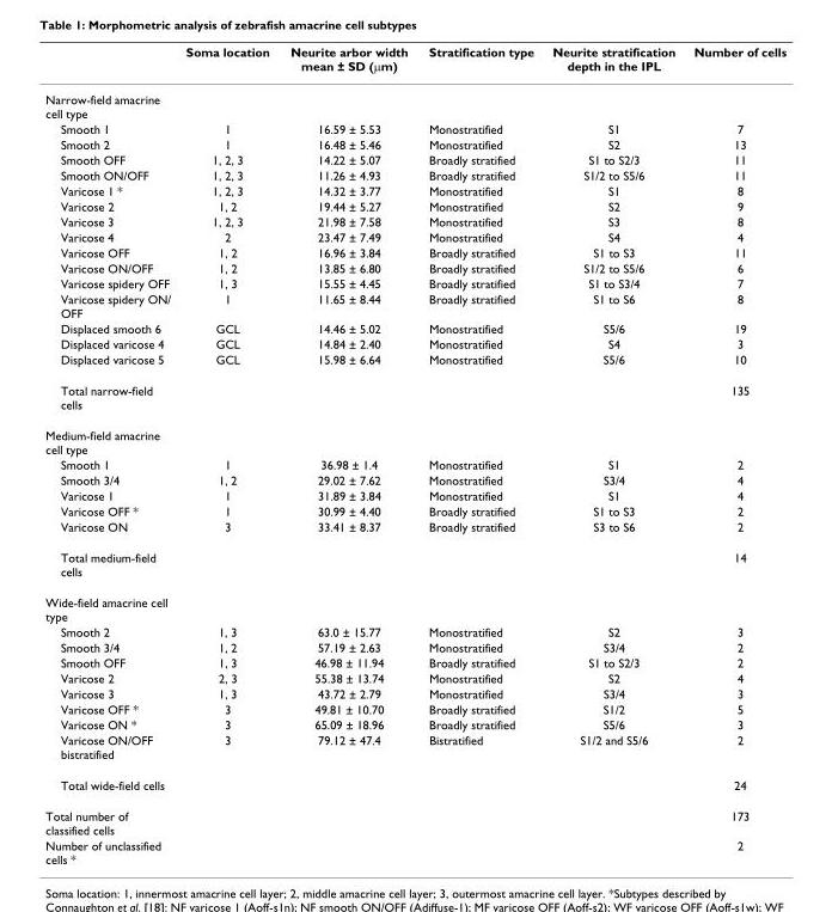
<table><thead><tr><td></td><td>Soma location</td><td>Neurite arbor width mean ± SD (μm)</td><td>Stratification type</td><td>Neurite stratification depth in the IPL</td><td>Number of cells</td></tr></thead><tbody><tr><td colspan="6">Narrow-field amacrine cell type</td></tr><tr><td>Smooth 1</td><td>1</td><td>16.59 ± 5.53</td><td>Monostratified</td><td>S1</td><td>7</td></tr><tr><td>Smooth 2</td><td>1</td><td>16.48 ± 5.46</td><td>Monostratified</td><td>S2</td><td>13</td></tr><tr><td>Smooth OFF</td><td>1, 2, 3</td><td>14.22 ± 5.07</td><td>Broadly stratified</td><td>S1 to S2/3</td><td>11</td></tr><tr><td>Smooth ON/OFF</td><td>1, 2, 3</td><td>11.26 ± 4.93</td><td>Broadly stratified</td><td>S1/2 to S5/6</td><td>11</td></tr><tr><td>Varicose 1 *</td><td>1, 2, 3</td><td>14.32 ± 3.77</td><td>Monostratified</td><td>S1</td><td>8</td></tr><tr><td>Varicose 2</td><td>1, 2</td><td>19.44 ± 5.27</td><td>Monostratified</td><td>S2</td><td>9</td></tr><tr><td>Varicose 3</td><td>1, 2, 3</td><td>21.98 ± 7.58</td><td>Monostratified</td><td>S3</td><td>8</td></tr><tr><td>Varicose 4</td><td>2</td><td>23.47 ± 7.49</td><td>Monostratified</td><td>S4</td><td>4</td></tr><tr><td>Varicose OFF</td><td>1, 2</td><td>16.96 ± 3.84</td><td>Broadly stratified</td><td>S1 to S3</td><td>11</td></tr><tr><td>Varicose ON/OFF</td><td>1, 2</td><td>13.85 ± 6.80</td><td>Broadly stratified</td><td>S1/2 to S5/6</td><td>6</td></tr><tr><td>Varicose spidery OFF</td><td>1, 3</td><td>15.55 ± 4.45</td><td>Broadly stratified</td><td>S1 to S3/4</td><td>7</td></tr><tr><td>Varicose spidery ON/ OFF</td><td>1</td><td>11.65 ± 8.44</td><td>Broadly stratified</td><td>S1 to S6</td><td>8</td></tr><tr><td>Displaced smooth 6</td><td>GCL</td><td>14.46 ± 5.02</td><td>Monostratified</td><td>S5/6</td><td>19</td></tr><tr><td>Displaced varicose 4</td><td>GCL</td><td>14.84 ± 2.40</td><td>Monostratified</td><td>S4</td><td>3</td></tr><tr><td>Displaced varicose 5</td><td>GCL</td><td>15.98 ± 6.64</td><td>Monostratified</td><td>S5/6</td><td>10</td></tr><tr><td>Total narrow-field cells</td><td></td><td></td><td></td><td></td><td>135</td></tr><tr><td colspan="6">Medium-field amacrine cell type</td></tr><tr><td>Smooth 1</td><td>1</td><td>36.98 ± 1.4</td><td>Monostratified</td><td>S1</td><td>2</td></tr><tr><td>Smooth 3/4</td><td>1, 2</td><td>29.02 ± 7.62</td><td>Monostratified</td><td>S3/4</td><td>4</td></tr><tr><td>Varicose 1</td><td>1</td><td>31.89 ± 3.84</td><td>Monostratified</td><td>S1</td><td>4</td></tr><tr><td>Varicose OFF *</td><td>1</td><td>30.99 ± 4.40</td><td>Broadly stratified</td><td>S1 to S3</td><td>2</td></tr><tr><td>Varicose ON</td><td>3</td><td>33.41 ± 8.37</td><td>Broadly stratified</td><td>S3 to S6</td><td>2</td></tr><tr><td>Total medium-field cells</td><td></td><td></td><td></td><td></td><td>14</td></tr><tr><td colspan="6">Wide-field amacrine cell type</td></tr><tr><td>Smooth 2</td><td>1, 3</td><td>63.0 ± 15.77</td><td>Monostratified</td><td>S2</td><td>3</td></tr><tr><td>Smooth 3/4</td><td>1, 2</td><td>57.19 ± 2.63</td><td>Monostratified</td><td>S3/4</td><td>2</td></tr><tr><td>Smooth OFF</td><td>1, 3</td><td>46.98 ± 11.94</td><td>Broadly stratified</td><td>S1 to S2/3</td><td>2</td></tr><tr><td>Varicose 2</td><td>2, 3</td><td>55.38 ± 13.74</td><td>Monostratified</td><td>S2</td><td>4</td></tr><tr><td>Varicose 3</td><td>1, 3</td><td>43.72 ± 2.79</td><td>Monostratified</td><td>S3/4</td><td>3</td></tr><tr><td>Varicose OFF *</td><td>3</td><td>49.81 ± 10.70</td><td>Broadly stratified</td><td>S1/2</td><td>5</td></tr><tr><td>Varicose ON *</td><td>3</td><td>65.09 ± 18.96</td><td>Broadly stratified</td><td>S5/6</td><td>3</td></tr><tr><td>Varicose ON/OFF bistratified</td><td>3</td><td>79.12 ± 47.4</td><td>Bistratified</td><td>S1/2 and S5/6</td><td>2</td></tr><tr><td>Total wide-field cells</td><td></td><td></td><td></td><td></td><td>24</td></tr><tr><td>Total number of classified cells</td><td></td><td></td><td></td><td></td><td>173</td></tr><tr><td>Number of unclassified cells *</td><td></td><td></td><td></td><td></td><td>2</td></tr></tbody></table>